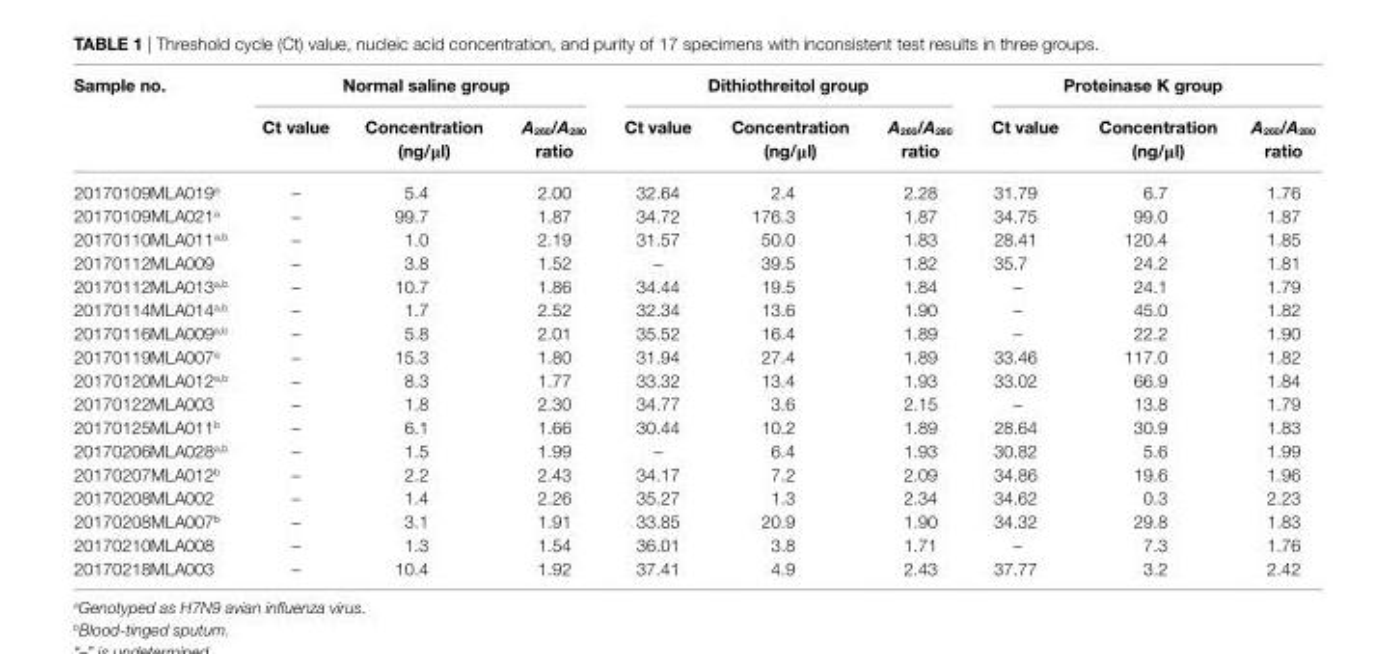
<table><thead><tr><td rowspan="2">sample no.</td><td colspan="3">Normal saline group</td><td colspan="3">dithiothreitol group</td><td colspan="3">Proteinase K group</td></tr><tr><td>Ct value</td><td>Concentration (ng/μl)</td><td>A<sub>260</sub>/A<sub>280</sub> ratio</td><td>Ct value</td><td>Concentration (ng/μl)</td><td>A<sub>260</sub>/A<sub>280</sub> ratio</td><td>Ct value</td><td>Concentration (ng/μl)</td><td>A<sub>260</sub>/A<sub>280</sub> ratio</td></tr></thead><tbody><tr><td>20170109MLA019<sup>a</sup></td><td>–</td><td>5.4</td><td>2.00</td><td>32.64</td><td>2.4</td><td>2.28</td><td>31.79</td><td>6.7</td><td>1.76</td></tr><tr><td>20170109MLA021<sup>a</sup></td><td>–</td><td>99.7</td><td>1.87</td><td>34.72</td><td>176.3</td><td>1.87</td><td>34.75</td><td>99.0</td><td>1.87</td></tr><tr><td>20170110MLA011<sup>a,b</sup></td><td>–</td><td>1.0</td><td>2.19</td><td>31.57</td><td>50.0</td><td>1.83</td><td>28.41</td><td>120.4</td><td>1.85</td></tr><tr><td>20170112MLA009</td><td>–</td><td>3.8</td><td>1.52</td><td>–</td><td>39.5</td><td>1.82</td><td>35.7</td><td>24.2</td><td>1.81</td></tr><tr><td>20170112MLA013<sup>a,b</sup></td><td>–</td><td>10.7</td><td>1.86</td><td>34.44</td><td>19.5</td><td>1.84</td><td>–</td><td>24.1</td><td>1.79</td></tr><tr><td>20170114MLA014<sup>a,b</sup></td><td>–</td><td>1.7</td><td>2.52</td><td>32.34</td><td>13.6</td><td>1.90</td><td>–</td><td>45.0</td><td>1.82</td></tr><tr><td>20170116MLA009<sup>a,b</sup></td><td>–</td><td>5.8</td><td>2.01</td><td>35.52</td><td>16.4</td><td>1.89</td><td>–</td><td>22.2</td><td>1.90</td></tr><tr><td>20170119MLA007<sup>a</sup></td><td>–</td><td>15.3</td><td>1.80</td><td>31.94</td><td>27.4</td><td>1.89</td><td>33.46</td><td>117.0</td><td>1.82</td></tr><tr><td>20170120MLA012<sup>a,b</sup></td><td>–</td><td>8.3</td><td>1.77</td><td>33.32</td><td>13.4</td><td>1.93</td><td>33.02</td><td>66.9</td><td>1.84</td></tr><tr><td>20170122MLA003</td><td>–</td><td>1.8</td><td>2.30</td><td>34.77</td><td>3.6</td><td>2.15</td><td>–</td><td>13.8</td><td>1.79</td></tr><tr><td>20170125MLA011<sup>b</sup></td><td>–</td><td>6.1</td><td>1.66</td><td>30.44</td><td>10.2</td><td>1.89</td><td>28.64</td><td>30.9</td><td>1.83</td></tr><tr><td>20170206MLA028<sup>a,b</sup></td><td>–</td><td>1.5</td><td>1.99</td><td>–</td><td>6.4</td><td>1.93</td><td>30.82</td><td>5.6</td><td>1.99</td></tr><tr><td>20170207MLA012<sup>b</sup></td><td>–</td><td>2.2</td><td>2.43</td><td>34.17</td><td>7.2</td><td>2.09</td><td>34.86</td><td>19.6</td><td>1.96</td></tr><tr><td>20170208MLA002</td><td>–</td><td>1.4</td><td>2.26</td><td>35.27</td><td>1.3</td><td>2.34</td><td>34.62</td><td>0.3</td><td>2.23</td></tr><tr><td>20170208MLA007<sup>b</sup></td><td>–</td><td>3.1</td><td>1.91</td><td>33.85</td><td>20.9</td><td>1.90</td><td>34.32</td><td>29.8</td><td>1.83</td></tr><tr><td>20170210MLA008</td><td>–</td><td>1.3</td><td>1.54</td><td>36.01</td><td>3.8</td><td>1.71</td><td>–</td><td>7.3</td><td>1.76</td></tr><tr><td>20170218MLA003</td><td>–</td><td>10.4</td><td>1.92</td><td>37.41</td><td>4.9</td><td>2.43</td><td>37.77</td><td>3.2</td><td>2.42</td></tr></tbody></table>